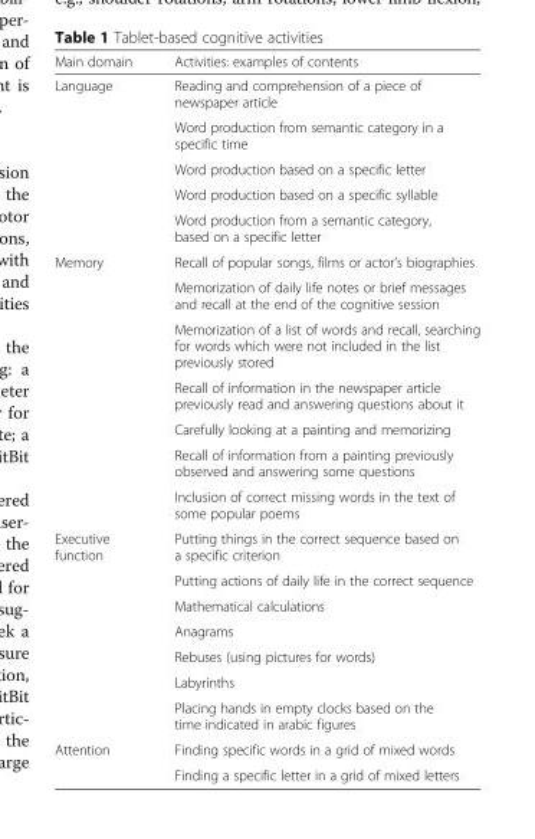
<table><thead><tr><td>Main domain</td><td>Activities: examples of contents</td></tr></thead><tbody><tr><td rowspan="5">Language</td><td>Reading and comprehension of a piece of newspaper article</td></tr><tr><td>Word production from semantic category in a specific time</td></tr><tr><td>Word production based on a specific letter</td></tr><tr><td>Word production based on a specific syllable</td></tr><tr><td>Word production from a semantic category, based on a specific letter</td></tr><tr><td rowspan="7">Memory</td><td>Recall of popular songs, films or actor’s biographies</td></tr><tr><td>Memorization of daily life notes or brief messages and recall at the end of the cognitive session</td></tr><tr><td>Memorization of a list of words and recall, searching for words which were not included in the list previously stored</td></tr><tr><td>Recall of information in the newspaper article previously read and answering questions about it</td></tr><tr><td>Carefully looking at a painting and memorizing</td></tr><tr><td>Recall of information from a painting previously observed and answering some questions</td></tr><tr><td>Inclusion of correct missing words in the text of some popular poems</td></tr><tr><td rowspan="7">Executive function</td><td>Putting things in the correct sequence based on a specific criterion</td></tr><tr><td>Putting actions of daily life in the correct sequence</td></tr><tr><td>Mathematical calculations</td></tr><tr><td>Anagrams</td></tr><tr><td>Rebuses (using pictures for words)</td></tr><tr><td>Labyrinths</td></tr><tr><td>Placing hands in empty clocks based on the time indicated in arabic figures</td></tr><tr><td rowspan="2">Attention</td><td>Finding specific words in a grid of mixed words</td></tr><tr><td>Finding a specific letter in a grid of mixed letters</td></tr></tbody></table>